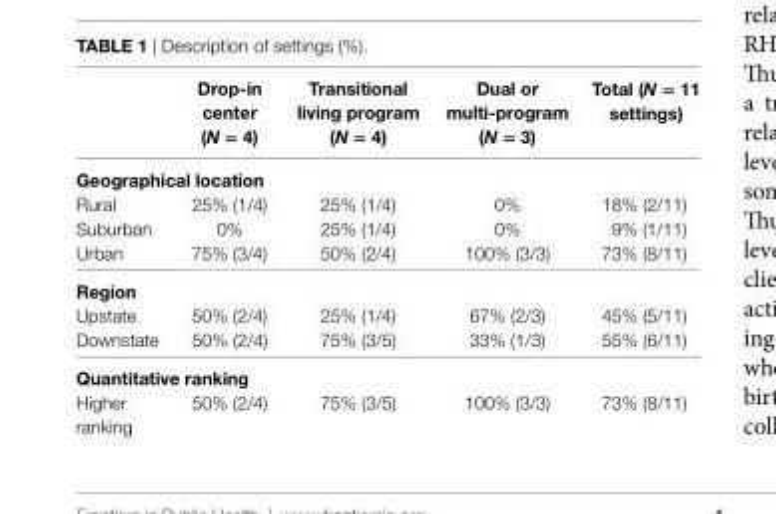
<table><thead><tr><td></td><td>Drop-in center (N = 4)</td><td>Transitional living program (N = 4)</td><td>Dual or multi-program (N = 3)</td><td>Total (N = 11 settings)</td></tr></thead><tbody><tr><td colspan="5">geographical location</td></tr><tr><td>Rural</td><td>25% (1/4)</td><td>25% (1/4)</td><td>0%</td><td>18% (2/11)</td></tr><tr><td>Suburban</td><td>0%</td><td>25% (1/4)</td><td>0%</td><td>9% (1/11)</td></tr><tr><td>Urban</td><td>75% (3/4)</td><td>50% (2/4)</td><td>100% (3/3)</td><td>73% (8/11)</td></tr><tr><td colspan="5">region</td></tr><tr><td>Upstate</td><td>50% (2/4)</td><td>25% (1/4)</td><td>67% (2/3)</td><td>45% (5/11)</td></tr><tr><td>Downstate</td><td>50% (2/4)</td><td>75% (3/5)</td><td>33% (1/3)</td><td>55% (6/11)</td></tr><tr><td colspan="5">Quantitative ranking</td></tr><tr><td>Higher ranking</td><td>50% (2/4)</td><td>75% (3/5)</td><td>100% (3/3)</td><td>73% (8/11)</td></tr></tbody></table>